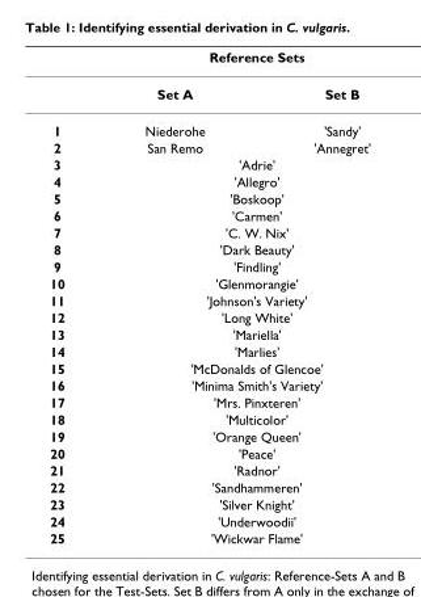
<table><thead><tr><td rowspan="2"></td><td colspan="2">Reference Sets</td></tr><tr><td>Set A</td><td>Set B</td></tr></thead><tbody><tr><td>1</td><td>Niederohe</td><td>&#x27;Sandy&#x27;</td></tr><tr><td>2</td><td>San Remo</td><td>&#x27;Annegret&#x27;</td></tr><tr><td>3</td><td colspan="2">&#x27;Adrie&#x27;</td></tr><tr><td>4</td><td colspan="2">&#x27;Allegro&#x27;</td></tr><tr><td>5</td><td colspan="2">&#x27;Boskoop&#x27;</td></tr><tr><td>6</td><td colspan="2">&#x27;Carmen&#x27;</td></tr><tr><td>7</td><td colspan="2">&#x27;C. W. Nix&#x27;</td></tr><tr><td>8</td><td colspan="2">&#x27;Dark Beauty&#x27;</td></tr><tr><td>9</td><td colspan="2">&#x27;Findling&#x27;</td></tr><tr><td>10</td><td colspan="2">&#x27;Glenmorangie&#x27;</td></tr><tr><td>11</td><td colspan="2">&#x27;Johnson&#x27;s Variety&#x27;</td></tr><tr><td>12</td><td colspan="2">&#x27;Long White&#x27;</td></tr><tr><td>13</td><td colspan="2">&#x27;Mariella&#x27;</td></tr><tr><td>14</td><td colspan="2">&#x27;Marlies&#x27;</td></tr><tr><td>15</td><td colspan="2">&#x27;McDonalds of Glencoe&#x27;</td></tr><tr><td>16</td><td colspan="2">&#x27;Minima Smith&#x27;s Variety&#x27;</td></tr><tr><td>17</td><td colspan="2">&#x27;Mrs. Pinxteren&#x27;</td></tr><tr><td>18</td><td colspan="2">&#x27;Multicolor&#x27;</td></tr><tr><td>19</td><td colspan="2">&#x27;Orange Queen&#x27;</td></tr><tr><td>20</td><td colspan="2">&#x27;Peace&#x27;</td></tr><tr><td>21</td><td colspan="2">&#x27;Radnor&#x27;</td></tr><tr><td>22</td><td colspan="2">&#x27;Sandhammeren&#x27;</td></tr><tr><td>23</td><td colspan="2">&#x27;Silver Knight&#x27;</td></tr><tr><td>24</td><td colspan="2">&#x27;Underwoodii&#x27;</td></tr><tr><td>25</td><td colspan="2">&#x27;Wickwar Flame&#x27;</td></tr></tbody></table>